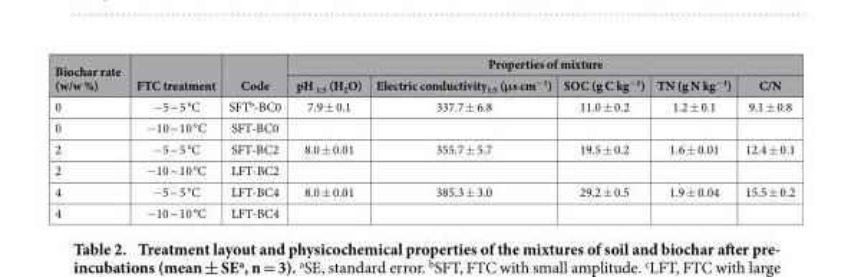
<table><thead><tr><td rowspan="2">Biochar rate (w/w %)</td><td rowspan="2">FTC treatment</td><td rowspan="2">Code</td><td colspan="5">Properties of mixture</td></tr><tr><td>pH <sub>1:5</sub> (H<sub>2</sub>O)</td><td>Electric conductivity<sub>1:5</sub> (μs cm<sup>−1</sup>)</td><td>SOC (g C kg<sup>−1</sup>)</td><td>TN (g N kg<sup>−1</sup>)</td><td>C/N</td></tr></thead><tbody><tr><td>0</td><td>− 5 ~ 5 °C</td><td>SFT<sup>b</sup>-BC0</td><td>7.9 ± 0.1</td><td>337.7 ± 6.8</td><td>11.0 ± 0.2</td><td>1.2 ± 0.1</td><td>9.1 ± 0.8</td></tr><tr><td>0</td><td>− 10 ~ 10 °C</td><td>SFT-BC0</td><td></td><td></td><td></td><td></td><td></td></tr><tr><td>2</td><td>− 5 ~ 5 °C</td><td>SFT-BC2</td><td>8.0 ± 0.01</td><td>355.7 ± 5.7</td><td>19.5 ± 0.2</td><td>1.6 ± 0.01</td><td>12.4 ± 0.1</td></tr><tr><td>2</td><td>− 10 ~ 10 °C</td><td>LFT-BC2</td><td></td><td></td><td></td><td></td><td></td></tr><tr><td>4</td><td>− 5 ~ 5 °C</td><td>LFT-BC4</td><td>8.0 ± 0.01</td><td>385.3 ± 3.0</td><td>29.2 ± 0.5</td><td>1.9 ± 0.04</td><td>15.5 ± 0.2</td></tr><tr><td>4</td><td>− 10 ~ 10 °C</td><td>LFT-BC4</td><td></td><td></td><td></td><td></td><td></td></tr></tbody></table>